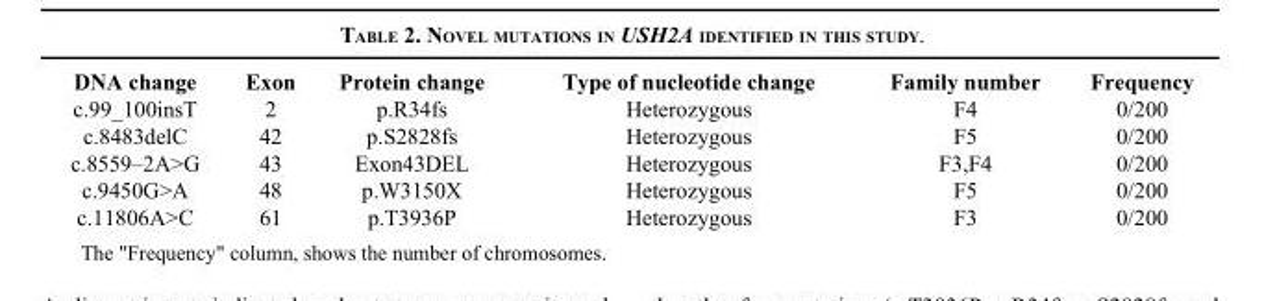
<table><thead><tr><td>DNA change</td><td>Exon</td><td>Protein change</td><td>Type of nucleotide change</td><td>Family number</td><td>Frequency</td></tr></thead><tbody><tr><td>c.99_100insT</td><td>2</td><td>p.R34fs</td><td>Heterozygous</td><td>F4</td><td>0/200</td></tr><tr><td>c.8483delC</td><td>42</td><td>p.S2828fs</td><td>Heterozygous</td><td>F5</td><td>0/200</td></tr><tr><td>c.8559–2A&gt;G</td><td>43</td><td>Exon43DEL</td><td>Heterozygous</td><td>F3,F4</td><td>0/200</td></tr><tr><td>c.9450G&gt;A</td><td>48</td><td>p.W3150X</td><td>Heterozygous</td><td>F5</td><td>0/200</td></tr><tr><td>c.11806A&gt;C</td><td>61</td><td>p.T3936P</td><td>Heterozygous</td><td>F3</td><td>0/200</td></tr></tbody></table>